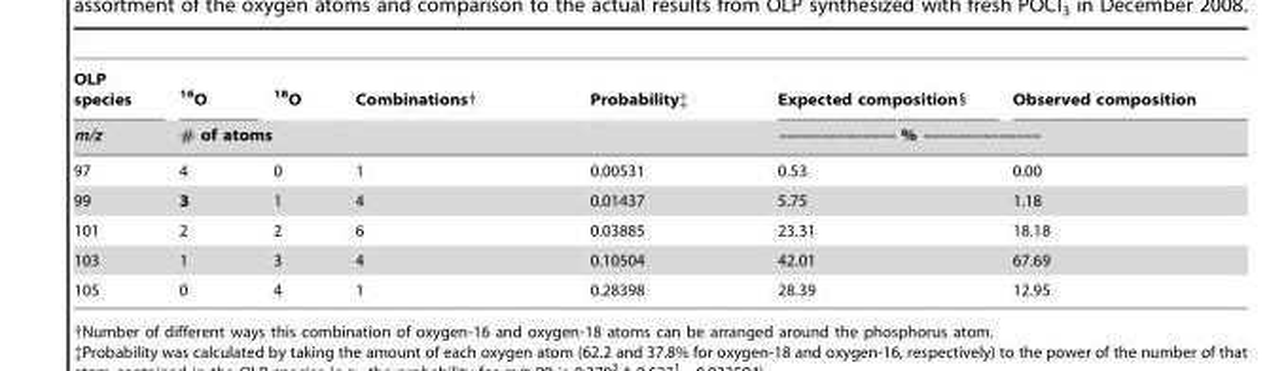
<table><thead><tr><td rowspan="2">OLP species m/z</td><td><sup>16</sup>O</td><td><sup>18</sup>O</td><td rowspan="2">Combinations†</td><td rowspan="2">Probability‡</td><td>Expected composition§</td><td>Observed composition</td></tr><tr><td colspan="2"># of atoms</td><td colspan="2">–––––––––––––– % ––––––––––––––</td></tr></thead><tbody><tr><td>97</td><td>4</td><td>0</td><td>1</td><td>0.00531</td><td>0.53</td><td>0.00</td></tr><tr><td>99</td><td>3</td><td>1</td><td>4</td><td>0.01437</td><td>5.75</td><td>1.18</td></tr><tr><td>101</td><td>2</td><td>2</td><td>6</td><td>0.03885</td><td>23.31</td><td>18.18</td></tr><tr><td>103</td><td>1</td><td>3</td><td>4</td><td>0.10504</td><td>42.01</td><td>67.69</td></tr><tr><td>105</td><td>0</td><td>4</td><td>1</td><td>0.28398</td><td>28.39</td><td>12.95</td></tr></tbody></table>